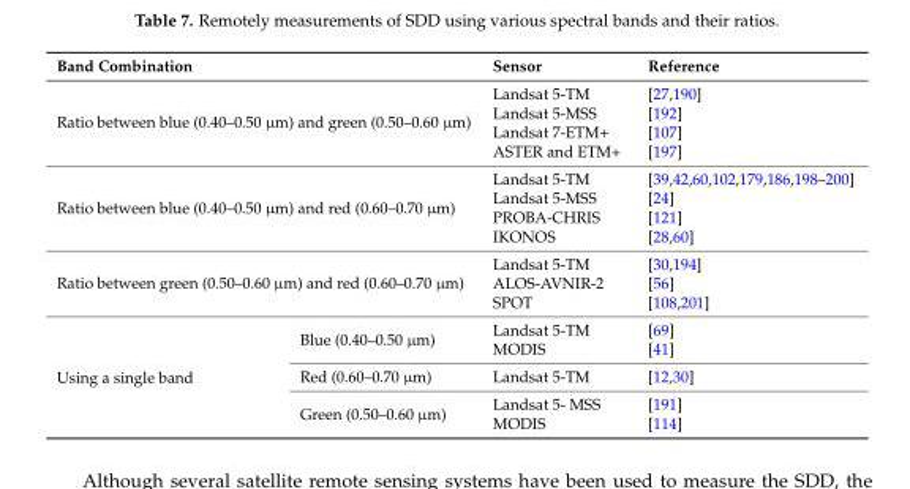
<table><thead><tr><td colspan="2">Band Combination</td><td>Sensor</td><td>Reference</td></tr></thead><tbody><tr><td rowspan="4" colspan="2">Ratio between blue (0.40–0.50 µm) and green (0.50–0.60 µm)</td><td>Landsat 5-TM</td><td>[27,190]</td></tr><tr><td>Landsat 5-MSS</td><td>[192]</td></tr><tr><td>Landsat 7-ETM+</td><td>[107]</td></tr><tr><td>ASTER and ETM+</td><td>[197]</td></tr><tr><td rowspan="4" colspan="2">Ratio between blue (0.40–0.50 µm) and red (0.60–0.70 µm)</td><td>Landsat 5-TM</td><td>[39,42,60,102,179,186,198–200]</td></tr><tr><td>Landsat 5-MSS</td><td>[24]</td></tr><tr><td>PROBA-CHRIS</td><td>[121]</td></tr><tr><td>IKONOS</td><td>[28,60]</td></tr><tr><td rowspan="3" colspan="2">Ratio between green (0.50–0.60 µm) and red (0.60–0.70 µm)</td><td>Landsat 5-TM</td><td>[30,194]</td></tr><tr><td>ALOS-AVNIR-2</td><td>[56]</td></tr><tr><td>SPOT</td><td>[108,201]</td></tr><tr><td rowspan="5">Using a single band</td><td rowspan="2">Blue (0.40–0.50 µm)</td><td>Landsat 5-TM</td><td>[69]</td></tr><tr><td>MODIS</td><td>[41]</td></tr><tr><td>Red (0.60–0.70 µm)</td><td>Landsat 5-TM</td><td>[12,30]</td></tr><tr><td rowspan="2">Green (0.50–0.60 µm)</td><td>Landsat 5- MSS</td><td>[191]</td></tr><tr><td>MODIS</td><td>[114]</td></tr></tbody></table>